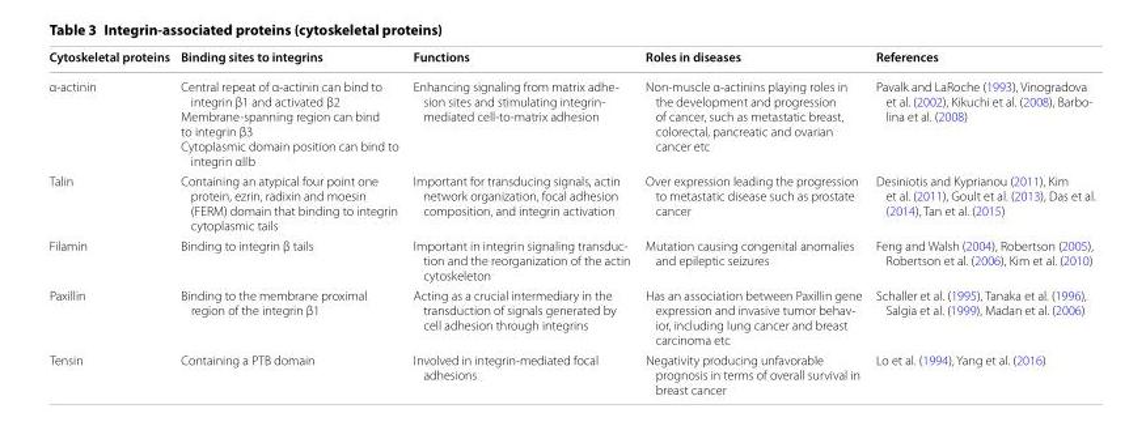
<table><thead><tr><td>Cytoskeletal proteins</td><td>Binding sites to integrins</td><td>Functions</td><td>Roles in diseases</td><td>References</td></tr></thead><tbody><tr><td>α-actinin</td><td>Central repeat of α-actinin can bind to integrin β1 and activated β2 Membrane-spanning region can bind to integrin β3 Cytoplasmic domain position can bind to integrin αIIb</td><td>Enhancing signaling from matrix adhe- sion sites and stimulating integrin- mediated cell-to-matrix adhesion</td><td>Non-muscle α-actinins playing roles in the development and progression of cancer, such as metastatic breast, colorectal, pancreatic and ovarian cancer etc</td><td>Pavalk and LaRoche (1993), Vinogradova et al. (2002), Kikuchi et al. (2008), Barbo- lina et al. (2008)</td></tr><tr><td>Talin</td><td>Containing an atypical four point one protein, ezrin, radixin and moesin (FERM) domain that binding to integrin cytoplasmic tails</td><td>Important for transducing signals, actin network organization, focal adhesion composition, and integrin activation</td><td>Over expression leading the progression to metastatic disease such as prostate cancer</td><td>Desiniotis and Kyprianou (2011), Kim et al. (2011), Goult et al. (2013), Das et al. (2014), Tan et al. (2015)</td></tr><tr><td>Filamin</td><td>Binding to integrin β tails</td><td>Important in integrin signaling transduc- tion and the reorganization of the actin cytoskeleton</td><td>Mutation causing congenital anomalies and epileptic seizures</td><td>Feng and Walsh (2004), Robertson (2005), Robertson et al. (2006), Kim et al. (2010)</td></tr><tr><td>Paxillin</td><td>Binding to the membrane proximal region of the integrin β1</td><td>Acting as a crucial intermediary in the transduction of signals generated by cell adhesion through integrins</td><td>Has an association between Paxillin gene expression and invasive tumor behav- ior, including lung cancer and breast carcinoma etc</td><td>Schaller et al. (1995), Tanaka et al. (1996), Salgia et al. (1999), Madan et al. (2006)</td></tr><tr><td>Tensin</td><td>Containing a PTB domain</td><td>Involved in integrin-mediated focal adhesions</td><td>Negativity producing unfavorable prognosis in terms of overall survival in breast cancer</td><td>Lo et al. (1994), Yang et al. (2016)</td></tr></tbody></table>